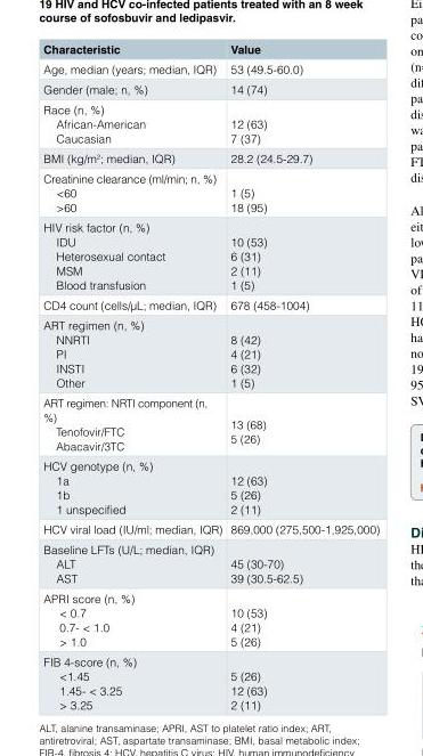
<table><thead><tr><td>Characteristic</td><td>Value</td></tr></thead><tbody><tr><td>Age, median (years; median, IQR)</td><td>53 (49.5-60.0)</td></tr><tr><td>Gender (male; n, %)</td><td>14 (74)</td></tr><tr><td>Race (n, %) African-American Caucasian</td><td>12 (63) 7 (37)</td></tr><tr><td>BMI (kg/m<sup>2</sup>; median, IQR)</td><td>28.2 (24.5-29.7)</td></tr><tr><td>Creatinine clearance (ml/min; n, %) &lt;60 &gt;60</td><td>1 (5) 18 (95)</td></tr><tr><td>HIV risk factor (n, %) IDU Heterosexual contact MSM Blood transfusion</td><td>10 (53) 6 (31) 2 (11) 1 (5)</td></tr><tr><td>CD4 count (cells/µL; median, IQR)</td><td>678 (458-1004)</td></tr><tr><td>ART regimen (n, %) NNRTI PI INSTI Other</td><td>8 (42) 4 (21) 6 (32) 1 (5)</td></tr><tr><td>ART regimen: NRTI component (n, %) Tenofovir/FTC Abacavir/3TC</td><td>13 (68) 5 (26)</td></tr><tr><td>HCV genotype (n, %) 1a 1b 1 unspecified</td><td>12 (63) 5 (26) 2 (11)</td></tr><tr><td>HCV viral load (IU/ml; median, IQR)</td><td>869,000 (275,500-1,925,000)</td></tr><tr><td>Baseline LFTs (U/L; median, IQR) ALT AST</td><td>45 (30-70) 39 (30.5-62.5)</td></tr><tr><td>APRI score (n, %) &lt; 0.7 0.7- &lt; 1.0 &gt; 1.0</td><td>10 (53) 4 (21) 5 (26)</td></tr><tr><td>FIB 4-score (n, %) &lt;1.45 1.45- &lt; 3.25 &gt; 3.25</td><td>5 (26) 12 (63) 2 (11)</td></tr></tbody></table>